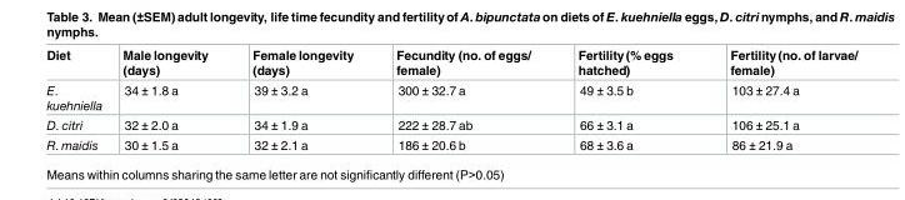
<table><thead><tr><td>Diet</td><td>Male longevity (days)</td><td>Female longevity (days)</td><td>Fecundity (no. of eggs/ female)</td><td>Fertility(% eggs hatched)</td><td>Fertility(no. of larvae/ female)</td></tr></thead><tbody><tr><td>E. kuehniella</td><td>34 ± 1.8 a</td><td>39 ± 3.2 a</td><td>300 ± 32.7 a</td><td>49 ± 3.5 b</td><td>103 ± 27.4 a</td></tr><tr><td>D. citri</td><td>32 ± 2.0 a</td><td>34 ± 1.9 a</td><td>222 ± 28.7 ab</td><td>66 ± 3.1 a</td><td>106 ± 25.1 a</td></tr><tr><td>R. maidis</td><td>30 ± 1.5 a</td><td>32 ± 2.1 a</td><td>186 ± 20.6 b</td><td>68 ± 3.6 a</td><td>86 ± 21.9 a</td></tr></tbody></table>